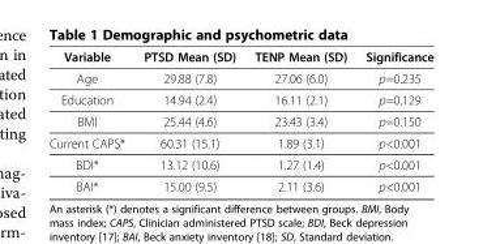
<table><thead><tr><td>Variable</td><td>PTSD Mean (SD)</td><td>TENP Mean (SD)</td><td>Significance</td></tr></thead><tbody><tr><td>Age</td><td>29.88 (7.8)</td><td>27.06 (6.0)</td><td>p=0.235</td></tr><tr><td>Education</td><td>14.94 (2.4)</td><td>16.11 (2.1)</td><td>p=0.129</td></tr><tr><td>BMI</td><td>25.44 (4.6)</td><td>23.43 (3.4)</td><td>p=0.150</td></tr><tr><td>Current CAPS*</td><td>60.31 (15.1)</td><td>1.89 (3.1)</td><td>p&lt;0.001</td></tr><tr><td>BDI*</td><td>13.12 (10.6)</td><td>1.27 (1.4)</td><td>p&lt;0.001</td></tr><tr><td>BAI*</td><td>15.00 (9.5)</td><td>2.11 (3.6)</td><td>p&lt;0.001</td></tr></tbody></table>